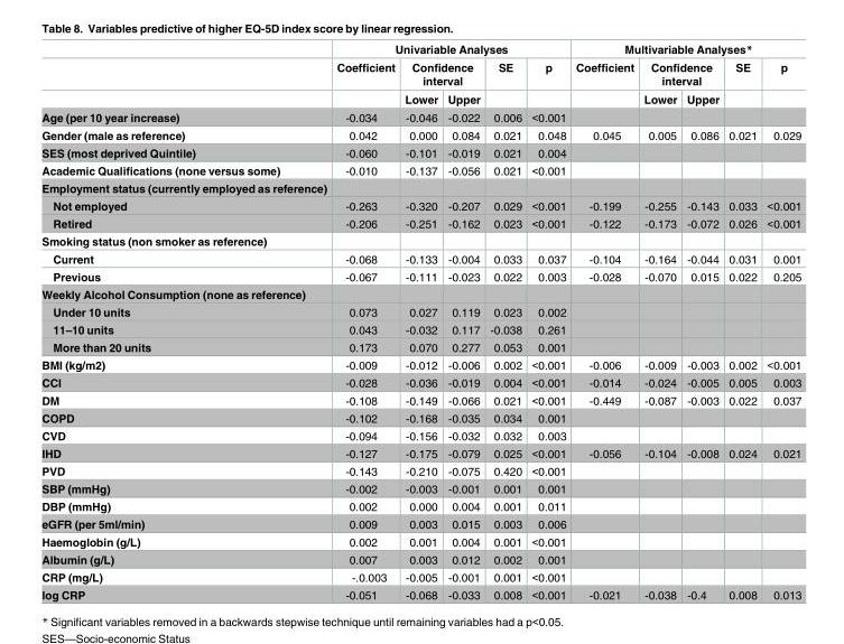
<table><thead><tr><td rowspan="3"></td><td colspan="5">Univariable Analyses</td><td colspan="5">Multivariable Analyses*</td></tr><tr><td rowspan="2">Coefficient</td><td colspan="2">Confidence interval</td><td rowspan="2">SE</td><td rowspan="2">p</td><td rowspan="2">Coefficient</td><td colspan="2">Confidence interval</td><td rowspan="2">SE</td><td rowspan="2">p</td></tr><tr><td>Lower</td><td>Upper</td><td>Lower</td><td>Upper</td></tr></thead><tbody><tr><td>Age (per 10 year increase)</td><td>-0.034</td><td>-0.046</td><td>-0.022</td><td>0.006</td><td>&lt;0.001</td><td></td><td></td><td></td><td></td><td></td></tr><tr><td>Gender (male as reference)</td><td>0.042</td><td>0.000</td><td>0.084</td><td>0.021</td><td>0.048</td><td>0.045</td><td>0.005</td><td>0.086</td><td>0.021</td><td>0.029</td></tr><tr><td>SES (most deprived Quintile)</td><td>-0.060</td><td>-0.101</td><td>-0.019</td><td>0.021</td><td>0.004</td><td></td><td></td><td></td><td></td><td></td></tr><tr><td>Academic Qualifications (none versus some)</td><td>-0.010</td><td>-0.137</td><td>-0.056</td><td>0.021</td><td>&lt;0.001</td><td></td><td></td><td></td><td></td><td></td></tr><tr><td colspan="11">Employment status (currently employed as reference)</td></tr><tr><td>Not employed</td><td>-0.263</td><td>-0.320</td><td>-0.207</td><td>0.029</td><td>&lt;0.001</td><td>-0.199</td><td>-0.255</td><td>-0.143</td><td>0.033</td><td>&lt;0.001</td></tr><tr><td>Retired</td><td>-0.206</td><td>-0.251</td><td>-0.162</td><td>0.023</td><td>&lt;0.001</td><td>-0.122</td><td>-0.173</td><td>-0.072</td><td>0.026</td><td>&lt;0.001</td></tr><tr><td colspan="11">Smoking status (non smoker as reference)</td></tr><tr><td>Current</td><td>-0.068</td><td>-0.133</td><td>-0.004</td><td>0.033</td><td>0.037</td><td>-0.104</td><td>-0.164</td><td>-0.044</td><td>0.031</td><td>0.001</td></tr><tr><td>Previous</td><td>-0.067</td><td>-0.111</td><td>-0.023</td><td>0.022</td><td>0.003</td><td>-0.028</td><td>-0.070</td><td>0.015</td><td>0.022</td><td>0.205</td></tr><tr><td colspan="11">Weekly Alcohol Consumption (none as reference)</td></tr><tr><td>Under 10 units</td><td>0.073</td><td>0.027</td><td>0.119</td><td>0.023</td><td>0.002</td><td></td><td></td><td></td><td></td><td></td></tr><tr><td>11–10 units</td><td>0.043</td><td>-0.032</td><td>0.117</td><td>-0.038</td><td>0.261</td><td></td><td></td><td></td><td></td><td></td></tr><tr><td>More than 20 units</td><td>0.173</td><td>0.070</td><td>0.277</td><td>0.053</td><td>0.001</td><td></td><td></td><td></td><td></td><td></td></tr><tr><td>BMI (kg/m2)</td><td>-0.009</td><td>-0.012</td><td>-0.006</td><td>0.002</td><td>&lt;0.001</td><td>-0.006</td><td>-0.009</td><td>-0.003</td><td>0.002</td><td>&lt;0.001</td></tr><tr><td>CCI</td><td>-0.028</td><td>-0.036</td><td>-0.019</td><td>0.004</td><td>&lt;0.001</td><td>-0.014</td><td>-0.024</td><td>-0.005</td><td>0.005</td><td>0.003</td></tr><tr><td>DM</td><td>-0.108</td><td>-0.149</td><td>-0.066</td><td>0.021</td><td>&lt;0.001</td><td>-0.449</td><td>-0.087</td><td>-0.003</td><td>0.022</td><td>0.037</td></tr><tr><td>COPD</td><td>-0.102</td><td>-0.168</td><td>-0.035</td><td>0.034</td><td>0.001</td><td></td><td></td><td></td><td></td><td></td></tr><tr><td>CVD</td><td>-0.094</td><td>-0.156</td><td>-0.032</td><td>0.032</td><td>0.003</td><td></td><td></td><td></td><td></td><td></td></tr><tr><td>IHD</td><td>-0.127</td><td>-0.175</td><td>-0.079</td><td>0.025</td><td>&lt;0.001</td><td>-0.056</td><td>-0.104</td><td>-0.008</td><td>0.024</td><td>0.021</td></tr><tr><td>PVD</td><td>-0.143</td><td>-0.210</td><td>-0.075</td><td>0.420</td><td>&lt;0.001</td><td></td><td></td><td></td><td></td><td></td></tr><tr><td>SBP (mmHg)</td><td>-0.002</td><td>-0.003</td><td>-0.001</td><td>0.001</td><td>0.001</td><td></td><td></td><td></td><td></td><td></td></tr><tr><td>DBP (mmHg)</td><td>0.002</td><td>0.000</td><td>0.004</td><td>0.001</td><td>0.011</td><td></td><td></td><td></td><td></td><td></td></tr><tr><td>eGFR (per 5ml/min)</td><td>0.009</td><td>0.003</td><td>0.015</td><td>0.003</td><td>0.006</td><td></td><td></td><td></td><td></td><td></td></tr><tr><td>Haemoglobin (g/L)</td><td>0.002</td><td>0.001</td><td>0.004</td><td>0.001</td><td>&lt;0.001</td><td></td><td></td><td></td><td></td><td></td></tr><tr><td>Albumin (g/L)</td><td>0.007</td><td>0.003</td><td>0.012</td><td>0.002</td><td>0.001</td><td></td><td></td><td></td><td></td><td></td></tr><tr><td>CRP (mg/L)</td><td>-.0.003</td><td>-0.005</td><td>-0.001</td><td>0.001</td><td>&lt;0.001</td><td></td><td></td><td></td><td></td><td></td></tr><tr><td>log CRP</td><td>-0.051</td><td>-0.068</td><td>-0.033</td><td>0.008</td><td>&lt;0.001</td><td>-0.021</td><td>-0.038</td><td>-0.4</td><td>0.008</td><td>0.013</td></tr></tbody></table>